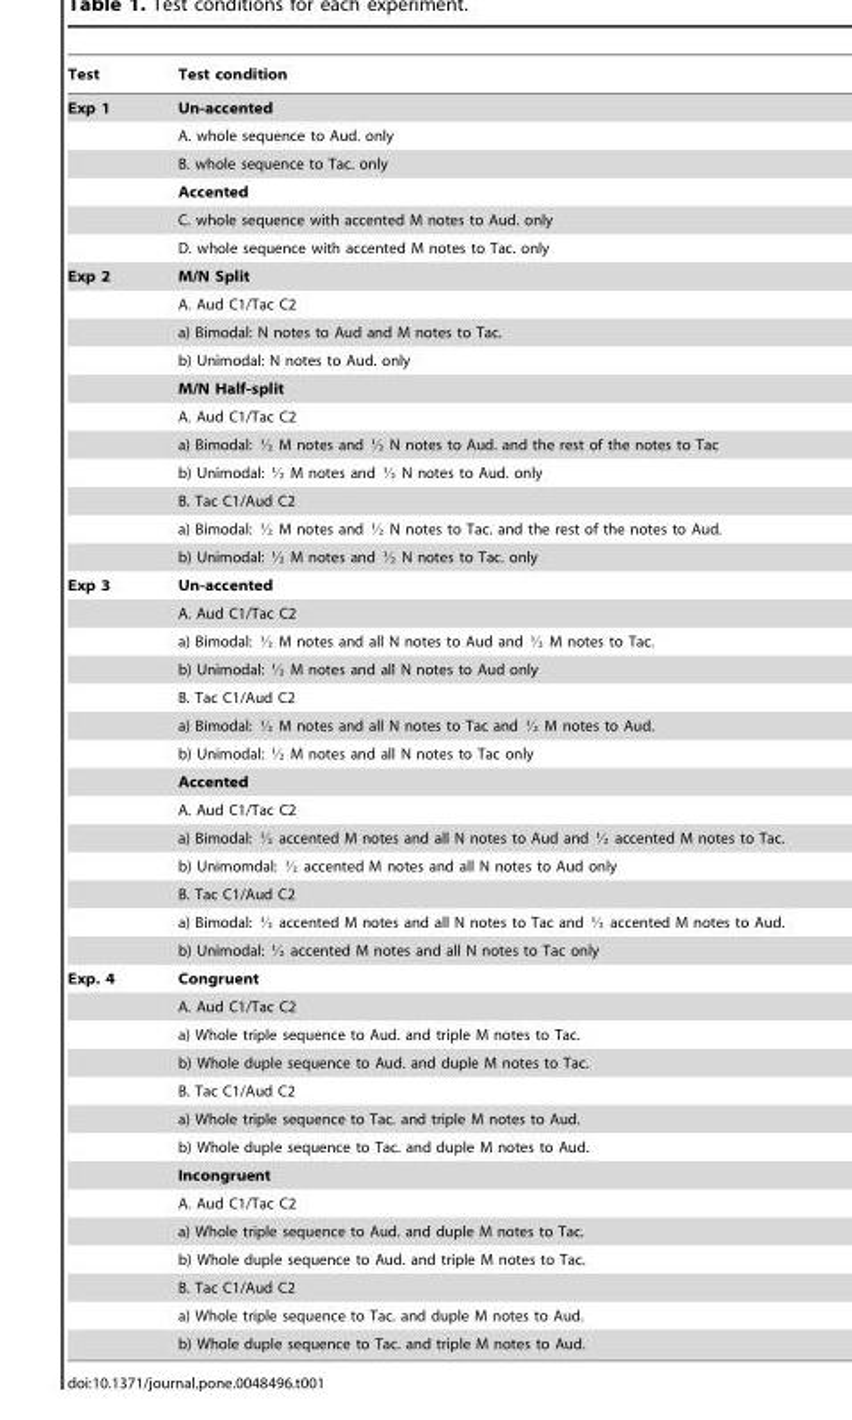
<table><thead><tr><td>Test</td><td>Test condition</td></tr></thead><tbody><tr><td rowspan="6">Exp 1</td><td>Un-accented</td></tr><tr><td>A. whole sequence to Aud. only</td></tr><tr><td>B. whole sequence to Tac. only</td></tr><tr><td>Accented</td></tr><tr><td>C. whole sequence with accented M notes to Aud. only</td></tr><tr><td>D. whole sequence with accented M notes to Tac. only</td></tr><tr><td rowspan="11">Exp 2</td><td>M/N Split</td></tr><tr><td>A. Aud C1/Tac C2</td></tr><tr><td>a) Bimodal: N notes to Aud and M notes to Tac.</td></tr><tr><td>b) Unimodal: N notes to Aud. only</td></tr><tr><td>M/N Half-split</td></tr><tr><td>A. Aud C1/Tac C2</td></tr><tr><td>a) Bimodal: K M notes and K N notes to Aud. and the rest of the notes to Tac</td></tr><tr><td>b) Unimodal: K M notes and K N notes to Aud. only</td></tr><tr><td>B. Tac C1/Aud C2</td></tr><tr><td>a) Bimodal: K M notes and K N notes to Tac. and the rest of the notes to Aud.</td></tr><tr><td>b) Unimodal: K M notes and K N notes to Tac. only</td></tr><tr><td rowspan="14">Exp 3</td><td>Un-accented</td></tr><tr><td>A. Aud C1/Tac C2</td></tr><tr><td>a) Bimodal: K M notes and all N notes to Aud and K M notes to Tac.</td></tr><tr><td>b) Unimodal: K M notes and all N notes to Aud only</td></tr><tr><td>B. Tac C1/Aud C2</td></tr><tr><td>a) Bimodal: K M notes and all N notes to Tac and K M notes to Aud.</td></tr><tr><td>b) Unimodal: K M notes and all N notes to Tac only</td></tr><tr><td>Accented</td></tr><tr><td>A. Aud C1/Tac C2</td></tr><tr><td>a) Bimodal: K accented M notes and all N notes to Aud and K accented M notes to Tac.</td></tr><tr><td>b) Unimomdal: K accented M notes and all N notes to Aud only</td></tr><tr><td>B. Tac C1/Aud C2</td></tr><tr><td>a) Bimodal: K accented M notes and all N notes to Tac and K accented M notes to Aud.</td></tr><tr><td>b) Unimodal: K accented M notes and all N notes to Tac only</td></tr><tr><td rowspan="14">Exp. 4</td><td>Congruent</td></tr><tr><td>A. Aud C1/Tac C2</td></tr><tr><td>a) Whole triple sequence to Aud. and triple M notes to Tac.</td></tr><tr><td>b) Whole duple sequence to Aud. and duple M notes to Tac.</td></tr><tr><td>B. Tac C1/Aud C2</td></tr><tr><td>a) Whole triple sequence to Tac. and triple M notes to Aud.</td></tr><tr><td>b) Whole duple sequence to Tac. and duple M notes to Aud.</td></tr><tr><td>Incongruent</td></tr><tr><td>A. Aud C1/Tac C2</td></tr><tr><td>a) Whole triple sequence to Aud. and duple M notes to Tac.</td></tr><tr><td>b) Whole duple sequence to Aud. and triple M notes to Tac.</td></tr><tr><td>B. Tac C1/Aud C2</td></tr><tr><td>a) Whole triple sequence to Tac. and duple M notes to Aud.</td></tr><tr><td>b) Whole duple sequence to Tac. and triple M notes to Aud.</td></tr></tbody></table>